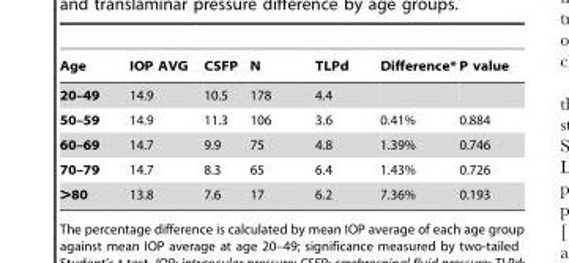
<table><thead><tr><td>Age</td><td>IOP AVG</td><td>CSFP</td><td>N</td><td>TLPd</td><td>Difference*</td><td>P value</td></tr></thead><tbody><tr><td>20–49</td><td>14.9</td><td>10.5</td><td>178</td><td>4.4</td><td></td><td></td></tr><tr><td>50–59</td><td>14.9</td><td>11.3</td><td>106</td><td>3.6</td><td>0.41%</td><td>0.884</td></tr><tr><td>60–69</td><td>14.7</td><td>9.9</td><td>75</td><td>4.8</td><td>1.39%</td><td>0.746</td></tr><tr><td>70–79</td><td>14.7</td><td>8.3</td><td>65</td><td>6.4</td><td>1.43%</td><td>0.726</td></tr><tr><td>&gt;80</td><td>13.8</td><td>7.6</td><td>17</td><td>6.2</td><td>7.36%</td><td>0.193</td></tr></tbody></table>